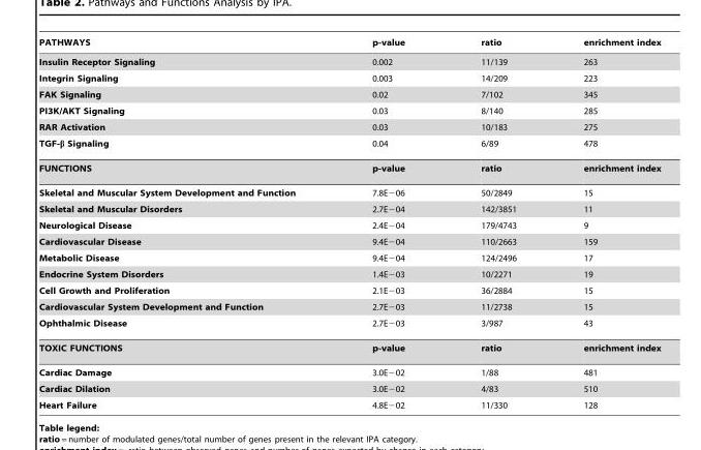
<table><thead><tr><td>PATHWAYS</td><td>p-value</td><td>ratio</td><td>enrichment index</td></tr></thead><tbody><tr><td>Insulin Receptor Signaling</td><td>0.002</td><td>11/139</td><td>263</td></tr><tr><td>Integrin Signaling</td><td>0.003</td><td>14/209</td><td>223</td></tr><tr><td>FAK Signaling</td><td>0.02</td><td>7/102</td><td>345</td></tr><tr><td>PI3K/AKT Signaling</td><td>0.03</td><td>8/140</td><td>285</td></tr><tr><td>RAR Activation</td><td>0.03</td><td>10/183</td><td>275</td></tr><tr><td>TGF-β Signaling</td><td>0.04</td><td>6/89</td><td>478</td></tr><tr><td>FUNCTIONS</td><td>p-value</td><td>ratio</td><td>enrichment index</td></tr><tr><td>Skeletal and Muscular System Development and Function</td><td>7.8E−06</td><td>50/2849</td><td>15</td></tr><tr><td>Skeletal and Muscular Disorders</td><td>2.7E−04</td><td>142/3851</td><td>11</td></tr><tr><td>Neurological Disease</td><td>2.4E−04</td><td>179/4743</td><td>9</td></tr><tr><td>Cardiovascular Disease</td><td>9.4E−04</td><td>110/2663</td><td>159</td></tr><tr><td>Metabolic Disease</td><td>9.4E−04</td><td>124/2496</td><td>17</td></tr><tr><td>Endocrine System Disorders</td><td>1.4E−03</td><td>10/2271</td><td>19</td></tr><tr><td>Cell Growth and Proliferation</td><td>2.1E−03</td><td>36/2884</td><td>15</td></tr><tr><td>Cardiovascular System Development and Function</td><td>2.7E−03</td><td>11/2738</td><td>15</td></tr><tr><td>Ophthalmic Disease</td><td>2.7E−03</td><td>3/987</td><td>43</td></tr><tr><td>TOXIC FUNCTIONS</td><td>p-value</td><td>ratio</td><td>enrichment index</td></tr><tr><td>Cardiac Damage</td><td>3.0E−02</td><td>1/88</td><td>481</td></tr><tr><td>Cardiac Dilation</td><td>3.0E−02</td><td>4/83</td><td>510</td></tr><tr><td>Heart Failure</td><td>4.8E−02</td><td>11/330</td><td>128</td></tr></tbody></table>